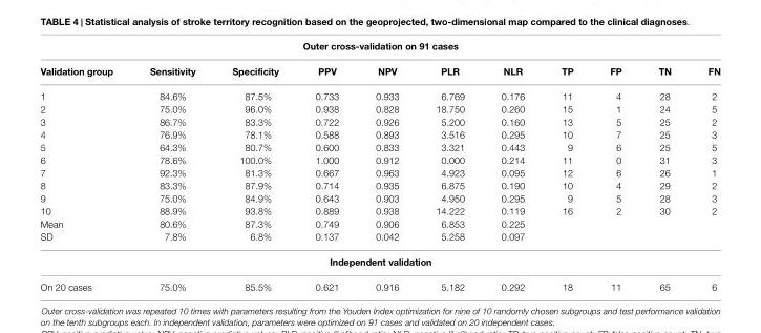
<table><thead><tr><td colspan="11">Outer cross-validation on 91 cases</td></tr><tr><td>Validation group</td><td>Sensitivity</td><td>Specificity</td><td>PPV</td><td>NPV</td><td>PLR</td><td>NLR</td><td>TP</td><td>FP</td><td>TN</td><td>FN</td></tr></thead><tbody><tr><td>1</td><td>84.6%</td><td>87.5%</td><td>0.733</td><td>0.933</td><td>6.769</td><td>0.176</td><td>11</td><td>4</td><td>28</td><td>2</td></tr><tr><td>2</td><td>75.0%</td><td>96.0%</td><td>0.938</td><td>0.828</td><td>18.750</td><td>0.260</td><td>15</td><td>1</td><td>24</td><td>5</td></tr><tr><td>3</td><td>86.7%</td><td>83.3%</td><td>0.722</td><td>0.926</td><td>5.200</td><td>0.160</td><td>13</td><td>5</td><td>25</td><td>2</td></tr><tr><td>4</td><td>76.9%</td><td>78.1%</td><td>0.588</td><td>0.893</td><td>3.516</td><td>0.295</td><td>10</td><td>7</td><td>25</td><td>3</td></tr><tr><td>5</td><td>64.3%</td><td>80.7%</td><td>0.600</td><td>0.833</td><td>3.321</td><td>0.443</td><td>9</td><td>6</td><td>25</td><td>5</td></tr><tr><td>6</td><td>78.6%</td><td>100.0%</td><td>1.000</td><td>0.912</td><td>0.000</td><td>0.214</td><td>11</td><td>0</td><td>31</td><td>3</td></tr><tr><td>7</td><td>92.3%</td><td>81.3%</td><td>0.667</td><td>0.963</td><td>4.923</td><td>0.095</td><td>12</td><td>6</td><td>26</td><td>1</td></tr><tr><td>8</td><td>83.3%</td><td>87.9%</td><td>0.714</td><td>0.935</td><td>6.875</td><td>0.190</td><td>10</td><td>4</td><td>29</td><td>2</td></tr><tr><td>9</td><td>75.0%</td><td>84.9%</td><td>0.643</td><td>0.903</td><td>4.950</td><td>0.295</td><td>9</td><td>5</td><td>28</td><td>3</td></tr><tr><td>10</td><td>88.9%</td><td>93.8%</td><td>0.889</td><td>0.938</td><td>14.222</td><td>0.119</td><td>16</td><td>2</td><td>30</td><td>2</td></tr><tr><td>Mean</td><td>80.6%</td><td>87.3%</td><td>0.749</td><td>0.906</td><td>6.853</td><td>0.225</td><td></td><td></td><td></td><td></td></tr><tr><td>SD</td><td>7.8%</td><td>6.8%</td><td>0.137</td><td>0.042</td><td>5.258</td><td>0.097</td><td></td><td></td><td></td><td></td></tr><tr><td colspan="11">Independent validation</td></tr><tr><td>On 20 cases</td><td>75.0%</td><td>85.5%</td><td>0.621</td><td>0.916</td><td>5.182</td><td>0.292</td><td>18</td><td>11</td><td>65</td><td>6</td></tr></tbody></table>